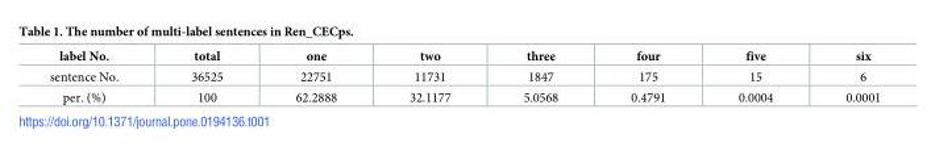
<table><thead><tr><td>label No.</td><td>total</td><td>one</td><td>two</td><td>three</td><td>four</td><td>five</td><td>six</td></tr></thead><tbody><tr><td>sentence No.</td><td>36525</td><td>22751</td><td>11731</td><td>1847</td><td>175</td><td>15</td><td>6</td></tr><tr><td>per. (%)</td><td>100</td><td>62.2888</td><td>32.1177</td><td>5.0568</td><td>0.4791</td><td>0.0004</td><td>0.0001</td></tr></tbody></table>